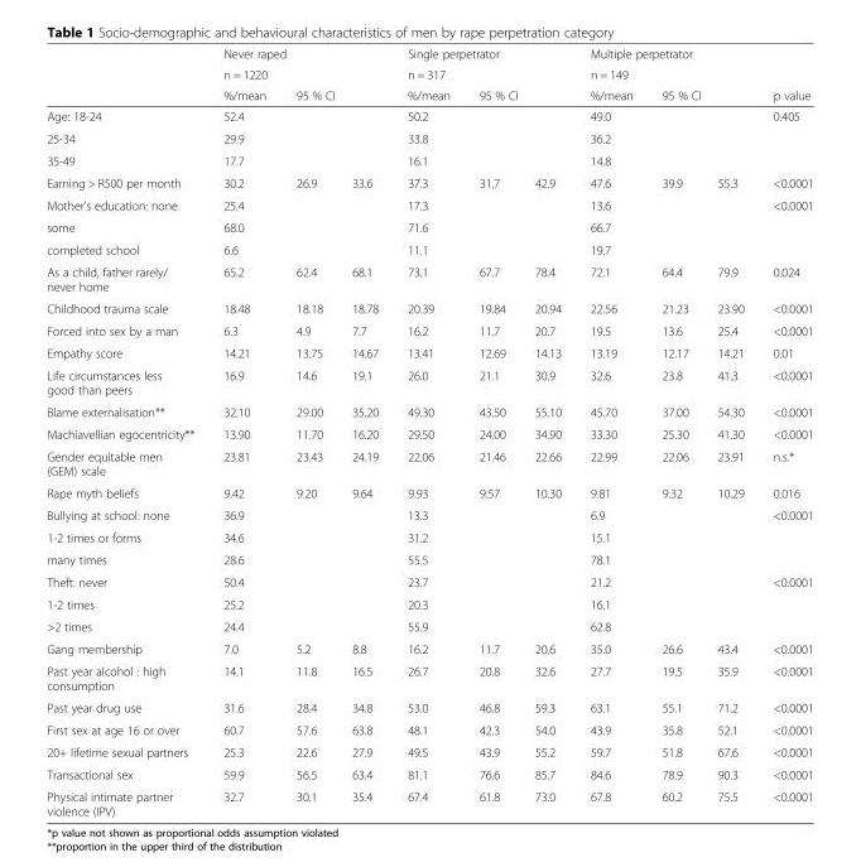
<table><thead><tr><td rowspan="3"></td><td colspan="2">Never raped</td><td rowspan="2"></td><td colspan="3">Single perpetrator</td><td colspan="3">Multiple perpetrator</td><td rowspan="3">p value</td></tr><tr><td rowspan="2">n = 1220 %/mean</td><td></td><td rowspan="2">n = 317 %/mean</td><td></td><td></td><td rowspan="2">n = 149 %/mean</td><td></td><td></td></tr><tr><td colspan="2">95 % CI</td><td colspan="2">95 % CI</td><td colspan="2">95 % CI</td></tr></thead><tbody><tr><td>Age: 18-24</td><td>52.4</td><td></td><td></td><td>50.2</td><td></td><td></td><td>49.0</td><td></td><td></td><td>0.405</td></tr><tr><td>25-34</td><td>29.9</td><td></td><td></td><td>33.8</td><td></td><td></td><td>36.2</td><td></td><td></td><td></td></tr><tr><td>35-49</td><td>17.7</td><td></td><td></td><td>16.1</td><td></td><td></td><td>14.8</td><td></td><td></td><td></td></tr><tr><td>Earning &gt; R500 per month</td><td>30.2</td><td>26.9</td><td>33.6</td><td>37.3</td><td>31.7</td><td>42.9</td><td>47.6</td><td>39.9</td><td>55.3</td><td>&lt;0.0001</td></tr><tr><td>Mother&#x27;s education: none</td><td>25.4</td><td></td><td></td><td>17.3</td><td></td><td></td><td>13.6</td><td></td><td></td><td>&lt;0.0001</td></tr><tr><td>some</td><td>68.0</td><td></td><td></td><td>71.6</td><td></td><td></td><td>66.7</td><td></td><td></td><td></td></tr><tr><td>completed school</td><td>6.6</td><td></td><td></td><td>11.1</td><td></td><td></td><td>19.7</td><td></td><td></td><td></td></tr><tr><td>As a child, father rarely/ never home</td><td>65.2</td><td>62.4</td><td>68.1</td><td>73.1</td><td>67.7</td><td>78.4</td><td>72.1</td><td>64.4</td><td>79.9</td><td>0.024</td></tr><tr><td>Childhood trauma scale</td><td>18.48</td><td>18.18</td><td>18.78</td><td>20.39</td><td>19.84</td><td>20.94</td><td>22.56</td><td>21.23</td><td>23.90</td><td>&lt;0.0001</td></tr><tr><td>Forced into sex by a man</td><td>6.3</td><td>4.9</td><td>7.7</td><td>16.2</td><td>11.7</td><td>20.7</td><td>19.5</td><td>13.6</td><td>25.4</td><td>&lt;0.0001</td></tr><tr><td>Empathy score</td><td>14.21</td><td>13.75</td><td>14.67</td><td>13.41</td><td>12.69</td><td>14.13</td><td>13.19</td><td>12.17</td><td>14.21</td><td>0.01</td></tr><tr><td>Life circumstances less good than peers</td><td>16.9</td><td>14.6</td><td>19.1</td><td>26.0</td><td>21.1</td><td>30.9</td><td>32.6</td><td>23.8</td><td>41.3</td><td>&lt;0.0001</td></tr><tr><td>Blame externalisation**</td><td>32.10</td><td>29.00</td><td>35.20</td><td>49.30</td><td>43.50</td><td>55.10</td><td>45.70</td><td>37.00</td><td>54.30</td><td>&lt;0.0001</td></tr><tr><td>Machiavellian egocentricity**</td><td>13.90</td><td>11.70</td><td>16.20</td><td>29.50</td><td>24.00</td><td>34.90</td><td>33.30</td><td>25.30</td><td>41.30</td><td>&lt;0.0001</td></tr><tr><td>Gender equitable men (GEM) scale</td><td>23.81</td><td>23.43</td><td>24.19</td><td>22.06</td><td>21.46</td><td>22.66</td><td>22.99</td><td>22.06</td><td>23.91</td><td>n.s.*</td></tr><tr><td>Rape myth beliefs</td><td>9.42</td><td>9.20</td><td>9.64</td><td>9.93</td><td>9.57</td><td>10.30</td><td>9.81</td><td>9.32</td><td>10.29</td><td>0.016</td></tr><tr><td>Bullying at school: none</td><td>36.9</td><td></td><td></td><td>13.3</td><td></td><td></td><td>6.9</td><td></td><td></td><td>&lt;0.0001</td></tr><tr><td>1-2 times or forms</td><td>34.6</td><td></td><td></td><td>31.2</td><td></td><td></td><td>15.1</td><td></td><td></td><td></td></tr><tr><td>many times</td><td>28.6</td><td></td><td></td><td>55.5</td><td></td><td></td><td>78.1</td><td></td><td></td><td></td></tr><tr><td>Theft: never</td><td>50.4</td><td></td><td></td><td>23.7</td><td></td><td></td><td>21.2</td><td></td><td></td><td>&lt;0.0001</td></tr><tr><td>1-2 times</td><td>25.2</td><td></td><td></td><td>20.3</td><td></td><td></td><td>16.1</td><td></td><td></td><td></td></tr><tr><td>&gt;2 times</td><td>24.4</td><td></td><td></td><td>55.9</td><td></td><td></td><td>62.8</td><td></td><td></td><td></td></tr><tr><td>Gang membership</td><td>7.0</td><td>5.2</td><td>8.8</td><td>16.2</td><td>11.7</td><td>20.6</td><td>35.0</td><td>26.6</td><td>43.4</td><td>&lt;0.0001</td></tr><tr><td>Past year alcohol : high consumption</td><td>14.1</td><td>11.8</td><td>16.5</td><td>26.7</td><td>20.8</td><td>32.6</td><td>27.7</td><td>19.5</td><td>35.9</td><td>&lt;0.0001</td></tr><tr><td>Past year drug use</td><td>31.6</td><td>28.4</td><td>34.8</td><td>53.0</td><td>46.8</td><td>59.3</td><td>63.1</td><td>55.1</td><td>71.2</td><td>&lt;0.0001</td></tr><tr><td>First sex at age 16 or over</td><td>60.7</td><td>57.6</td><td>63.8</td><td>48.1</td><td>42.3</td><td>54.0</td><td>43.9</td><td>35.8</td><td>52.1</td><td>&lt;0.0001</td></tr><tr><td>20+ lifetime sexual partners</td><td>25.3</td><td>22.6</td><td>27.9</td><td>49.5</td><td>43.9</td><td>55.2</td><td>59.7</td><td>51.8</td><td>67.6</td><td>&lt;0.0001</td></tr><tr><td>Transactional sex</td><td>59.9</td><td>56.5</td><td>63.4</td><td>81.1</td><td>76.6</td><td>85.7</td><td>84.6</td><td>78.9</td><td>90.3</td><td>&lt;0.0001</td></tr><tr><td>Physical intimate partner violence (IPV)</td><td>32.7</td><td>30.1</td><td>35.4</td><td>67.4</td><td>61.8</td><td>73.0</td><td>67.8</td><td>60.2</td><td>75.5</td><td>&lt;0.0001</td></tr></tbody></table>